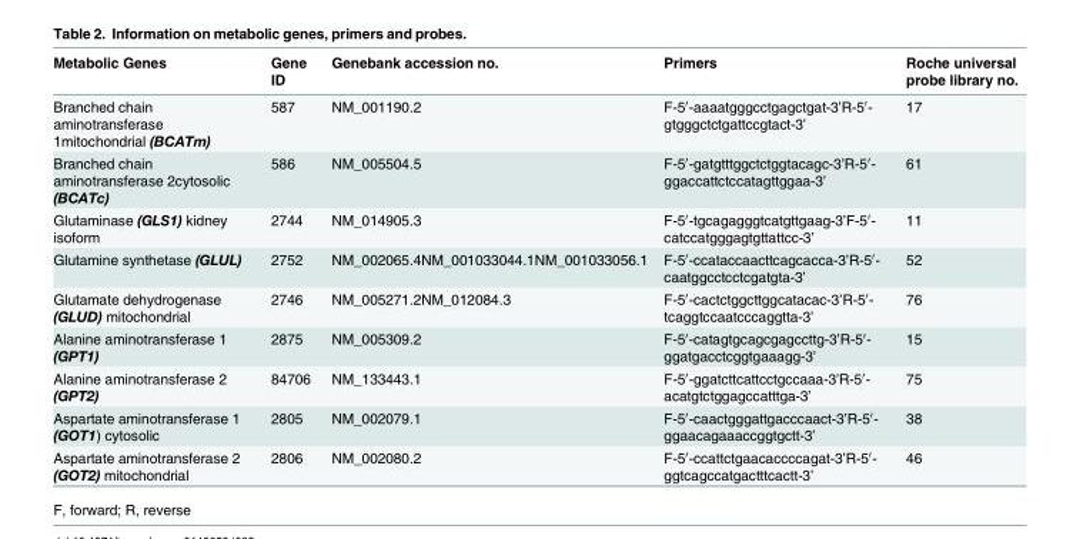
<table><thead><tr><td>Metabolic Genes</td><td>Gene ID</td><td>Genebank accession no.</td><td>Primers</td><td>Roche universal probe library no.</td></tr></thead><tbody><tr><td>Branched chain aminotransferase 1mitochondrial (BCATm)</td><td>587</td><td>NM_001190.2</td><td>F-5′-aaaatgggcctgagctgat-3’R-5′- gtgggctctgattccgtact-3’</td><td>17</td></tr><tr><td>Branched chain aminotransferase 2cytosolic (BCATc)</td><td>586</td><td>NM_005504.5</td><td>F-5′-gatgtttggctctggtacagc-3’R-5′- ggaccattctccatagttggaa-3’</td><td>61</td></tr><tr><td>Glutaminase (GLS1) kidney isoform</td><td>2744</td><td>NM_014905.3</td><td>F-5′-tgcagagggtcatgttgaag-3’F-5′- catccatgggagtgttattcc-3’</td><td>11</td></tr><tr><td>Glutamine synthetase (GLUL)</td><td>2752</td><td>NM_002065.4NM_001033044.1NM_001033056.1</td><td>F-5′-ccataccaacttcagcacca-3’R-5′- caatggcctcctcgatgta-3’</td><td>52</td></tr><tr><td>Glutamate dehydrogenase (GLUD) mitochondrial</td><td>2746</td><td>NM_005271.2NM_012084.3</td><td>F-5′-cactctggcttggcatacac-3’R-5′- tcaggtccaatcccaggtta-3’</td><td>76</td></tr><tr><td>Alanine aminotransferase 1 (GPT1)</td><td>2875</td><td>NM_005309.2</td><td>F-5′-catagtgcagcgagccttg-3’R-5′- ggatgacctcggtgaaagg-3’</td><td>15</td></tr><tr><td>Alanine aminotransferase 2 (GPT2)</td><td>84706</td><td>NM_133443.1</td><td>F-5′-ggatcttcattcctgccaaa-3’R-5′- acatgtctggagccatttga-3’</td><td>75</td></tr><tr><td>Aspartate aminotransferase 1 (GOT1) cytosolic</td><td>2805</td><td>NM_002079.1</td><td>F-5′-caactgggattgacccaact-3’R-5′- ggaacagaaaccggtgctt-3’</td><td>38</td></tr><tr><td>Aspartate aminotransferase 2 (GOT2) mitochondrial</td><td>2806</td><td>NM_002080.2</td><td>F-5′-ccattctgaacaccccagat-3’R-5′- ggtcagccatgactttcactt-3’</td><td>46</td></tr></tbody></table>